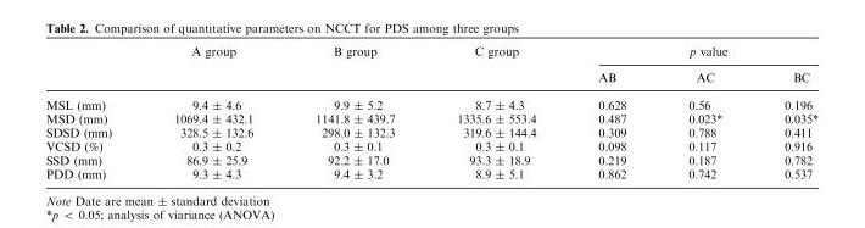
<table><thead><tr><td rowspan="2"></td><td rowspan="2">A group</td><td rowspan="2">B group</td><td rowspan="2">C group</td><td colspan="3">p value</td></tr><tr><td>AB</td><td>AC</td><td>BC</td></tr></thead><tbody><tr><td>MSL (mm)</td><td>9.4 ± 4.6</td><td>9.9 ± 5.2</td><td>8.7 ± 4.3</td><td>0.628</td><td>0.56</td><td>0.196</td></tr><tr><td>MSD (mm)</td><td>1069.4 ± 432.1</td><td>1141.8 ± 439.7</td><td>1335.6 ± 553.4</td><td>0.487</td><td>0.023*</td><td>0.035*</td></tr><tr><td>SDSD (mm)</td><td>328.5 ± 132.6</td><td>298.0 ± 132.3</td><td>319.6 ± 144.4</td><td>0.309</td><td>0.788</td><td>0.411</td></tr><tr><td>VCSD (%)</td><td>0.3 ± 0.2</td><td>0.3 ± 0.1</td><td>0.3 ± 0.1</td><td>0.098</td><td>0.117</td><td>0.916</td></tr><tr><td>SSD (mm)</td><td>86.9 ± 25.9</td><td>92.2 ± 17.0</td><td>93.3 ± 18.9</td><td>0.219</td><td>0.187</td><td>0.782</td></tr><tr><td>PDD (mm)</td><td>9.3 ± 4.3</td><td>9.4 ± 3.2</td><td>8.9 ± 5.1</td><td>0.862</td><td>0.742</td><td>0.537</td></tr></tbody></table>